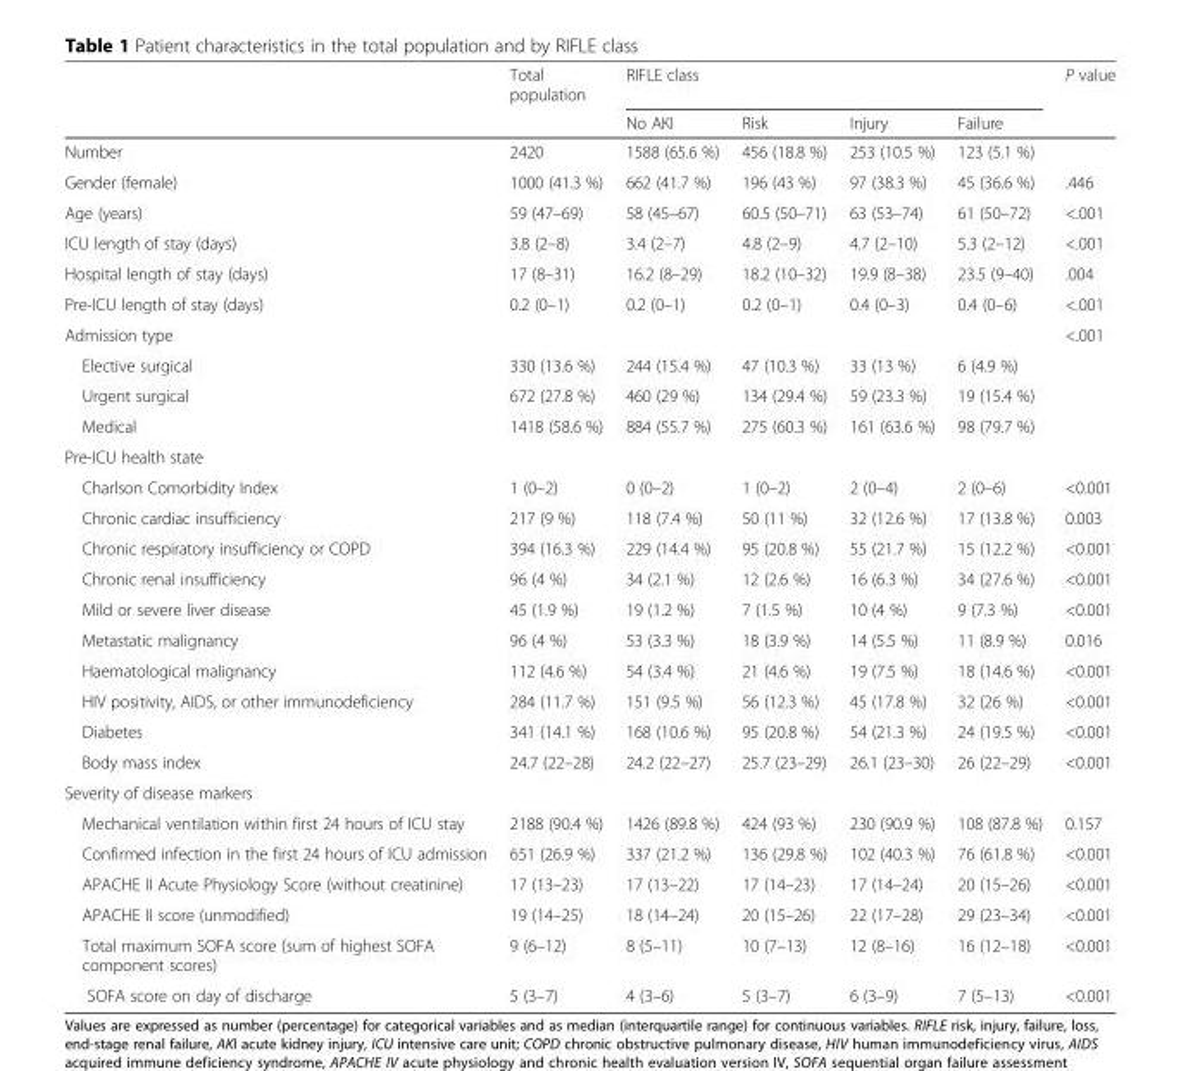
<table><thead><tr><td rowspan="2"></td><td rowspan="2">Total population</td><td colspan="4">RIFLE class</td><td rowspan="2">P value</td></tr><tr><td>No AKI</td><td>Risk</td><td>Injury</td><td>Failure</td></tr></thead><tbody><tr><td>Number</td><td>2420</td><td>1588 (65.6 %)</td><td>456 (18.8 %)</td><td>253 (10.5 %)</td><td>123 (5.1 %)</td><td></td></tr><tr><td>Gender (female)</td><td>1000 (41.3 %)</td><td>662 (41.7 %)</td><td>196 (43 %)</td><td>97 (38.3 %)</td><td>45 (36.6 %)</td><td>.446</td></tr><tr><td>Age (years)</td><td>59 (47–69)</td><td>58 (45–67)</td><td>60.5 (50–71)</td><td>63 (53–74)</td><td>61 (50–72)</td><td>&lt;.001</td></tr><tr><td>ICU length of stay (days)</td><td>3.8 (2–8)</td><td>3.4 (2–7)</td><td>4.8 (2–9)</td><td>4.7 (2–10)</td><td>5.3 (2–12)</td><td>&lt;.001</td></tr><tr><td>Hospital length of stay (days)</td><td>17 (8–31)</td><td>16.2 (8–29)</td><td>18.2 (10–32)</td><td>19.9 (8–38)</td><td>23.5 (9–40)</td><td>.004</td></tr><tr><td>Pre-ICU length of stay (days)</td><td>0.2 (0–1)</td><td>0.2 (0–1)</td><td>0.2 (0–1)</td><td>0.4 (0–3)</td><td>0.4 (0–6)</td><td>&lt;.001</td></tr><tr><td>Admission type</td><td></td><td></td><td></td><td></td><td></td><td>&lt;.001</td></tr><tr><td>Elective surgical</td><td>330 (13.6 %)</td><td>244 (15.4 %)</td><td>47 (10.3 %)</td><td>33 (13 %)</td><td>6 (4.9 %)</td><td></td></tr><tr><td>Urgent surgical</td><td>672 (27.8 %)</td><td>460 (29 %)</td><td>134 (29.4 %)</td><td>59 (23.3 %)</td><td>19 (15.4 %)</td><td></td></tr><tr><td>Medical</td><td>1418 (58.6 %)</td><td>884 (55.7 %)</td><td>275 (60.3 %)</td><td>161 (63.6 %)</td><td>98 (79.7 %)</td><td></td></tr><tr><td colspan="7">Pre-ICU health state</td></tr><tr><td>Charlson Comorbidity Index</td><td>1 (0–2)</td><td>0 (0–2)</td><td>1 (0–2)</td><td>2 (0–4)</td><td>2 (0–6)</td><td>&lt;0.001</td></tr><tr><td>Chronic cardiac insufficiency</td><td>217 (9 %)</td><td>118 (7.4 %)</td><td>50 (11 %)</td><td>32 (12.6 %)</td><td>17 (13.8 %)</td><td>0.003</td></tr><tr><td>Chronic respiratory insufficiency or COPD</td><td>394 (16.3 %)</td><td>229 (14.4 %)</td><td>95 (20.8 %)</td><td>55 (21.7 %)</td><td>15 (12.2 %)</td><td>&lt;0.001</td></tr><tr><td>Chronic renal insufficiency</td><td>96 (4 %)</td><td>34 (2.1 %)</td><td>12 (2.6 %)</td><td>16 (6.3 %)</td><td>34 (27.6 %)</td><td>&lt;0.001</td></tr><tr><td>Mild or severe liver disease</td><td>45 (1.9 %)</td><td>19 (1.2 %)</td><td>7 (1.5 %)</td><td>10 (4 %)</td><td>9 (7.3 %)</td><td>&lt;0.001</td></tr><tr><td>Metastatic malignancy</td><td>96 (4 %)</td><td>53 (3.3 %)</td><td>18 (3.9 %)</td><td>14 (5.5 %)</td><td>11 (8.9 %)</td><td>0.016</td></tr><tr><td>Haematological malignancy</td><td>112 (4.6 %)</td><td>54 (3.4 %)</td><td>21 (4.6 %)</td><td>19 (7.5 %)</td><td>18 (14.6 %)</td><td>&lt;0.001</td></tr><tr><td>HIV positivity, AIDS, or other immunodeficiency</td><td>284 (11.7 %)</td><td>151 (9.5 %)</td><td>56 (12.3 %)</td><td>45 (17.8 %)</td><td>32 (26 %)</td><td>&lt;0.001</td></tr><tr><td>Diabetes</td><td>341 (14.1 %)</td><td>168 (10.6 %)</td><td>95 (20.8 %)</td><td>54 (21.3 %)</td><td>24 (19.5 %)</td><td>&lt;0.001</td></tr><tr><td>Body mass index</td><td>24.7 (22–28)</td><td>24.2 (22–27)</td><td>25.7 (23–29)</td><td>26.1 (23–30)</td><td>26 (22–29)</td><td>&lt;0.001</td></tr><tr><td colspan="7">Severity of disease markers</td></tr><tr><td>Mechanical ventilation within first 24 hours of ICU stay</td><td>2188 (90.4 %)</td><td>1426 (89.8 %)</td><td>424 (93 %)</td><td>230 (90.9 %)</td><td>108 (87.8 %)</td><td>0.157</td></tr><tr><td>Confirmed infection in the first 24 hours of ICU admission</td><td>651 (26.9 %)</td><td>337 (21.2 %)</td><td>136 (29.8 %)</td><td>102 (40.3 %)</td><td>76 (61.8 %)</td><td>&lt;0.001</td></tr><tr><td>APACHE II Acute Physiology Score (without creatinine)</td><td>17 (13–23)</td><td>17 (13–22)</td><td>17 (14–23)</td><td>17 (14–24)</td><td>20 (15–26)</td><td>&lt;0.001</td></tr><tr><td>APACHE II score (unmodified)</td><td>19 (14–25)</td><td>18 (14–24)</td><td>20 (15–26)</td><td>22 (17–28)</td><td>29 (23–34)</td><td>&lt;0.001</td></tr><tr><td>Total maximum SOFA score (sum of highest SOFA component scores)</td><td>9 (6–12)</td><td>8 (5–11)</td><td>10 (7–13)</td><td>12 (8–16)</td><td>16 (12–18)</td><td>&lt;0.001</td></tr><tr><td>SOFA score on day of discharge</td><td>5 (3–7)</td><td>4 (3–6)</td><td>5 (3–7)</td><td>6 (3–9)</td><td>7 (5–13)</td><td>&lt;0.001</td></tr></tbody></table>